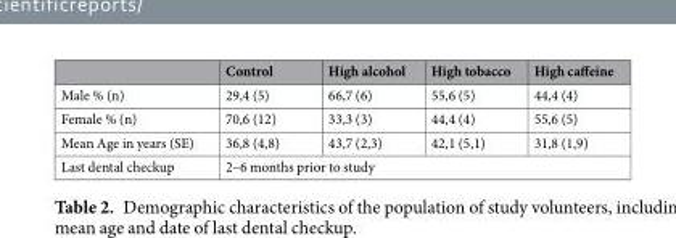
<table><thead><tr><td></td><td>Control</td><td>High alcohol</td><td>High tobacco</td><td>High caffeine</td></tr></thead><tbody><tr><td>Male % (n)</td><td>29,4 (5)</td><td>66,7 (6)</td><td>55,6 (5)</td><td>44,4 (4)</td></tr><tr><td>Female % (n)</td><td>70,6 (12)</td><td>33,3 (3)</td><td>44,4 (4)</td><td>55,6 (5)</td></tr><tr><td>Mean Age in years (SE)</td><td>36,8 (4,8)</td><td>43,7 (2,3)</td><td>42,1 (5,1)</td><td>31,8 (1,9)</td></tr><tr><td>Last dental checkup</td><td colspan="4">2–6 months prior to study</td></tr></tbody></table>